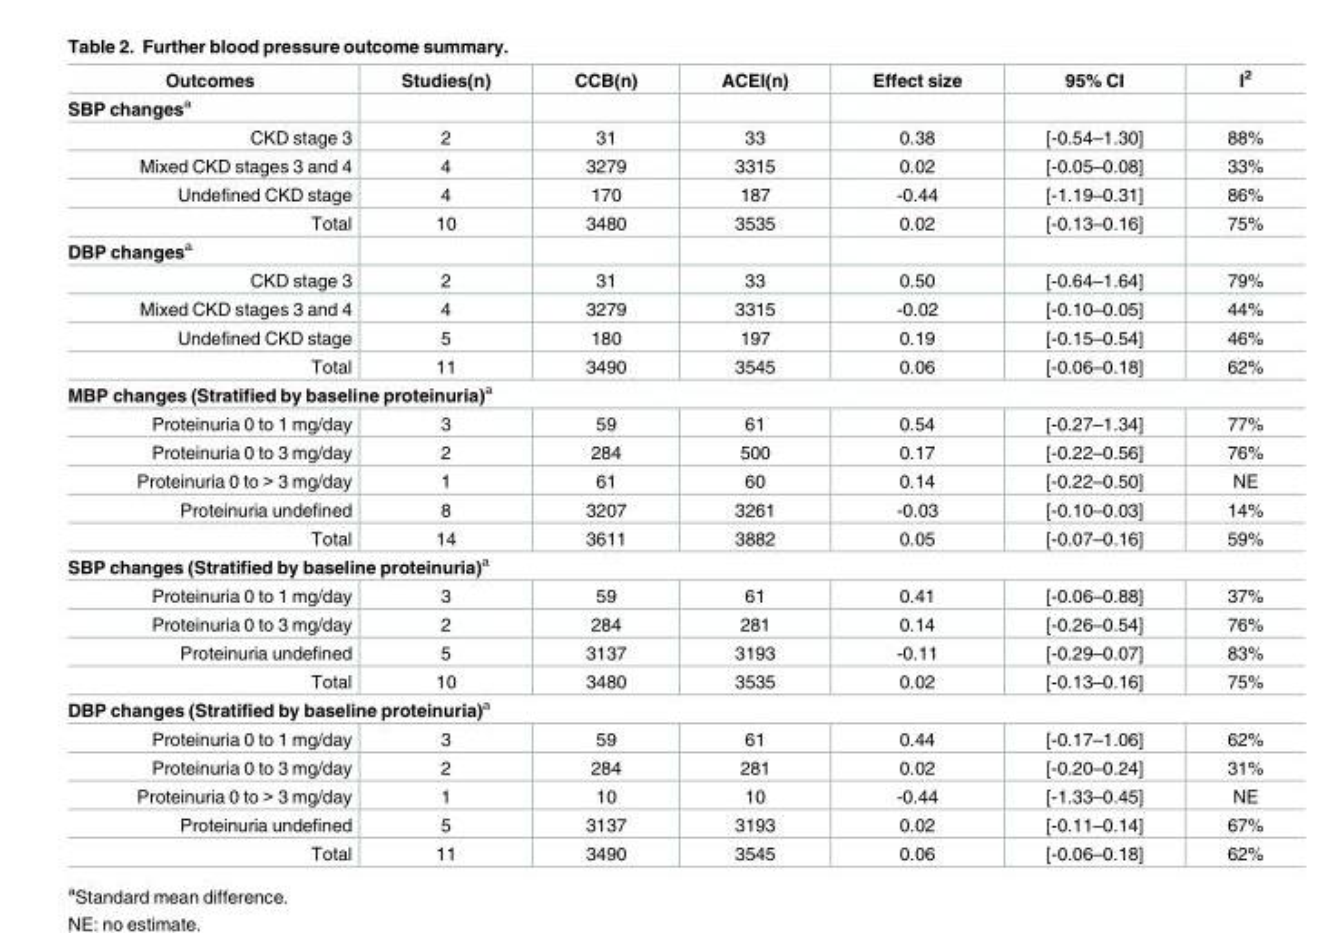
<table><thead><tr><td>Outcomes</td><td>Studies(n)</td><td>CCB(n)</td><td>ACEI(n)</td><td>Effect size</td><td>95% CI</td><td>I<sup>2</sup></td></tr></thead><tbody><tr><td colspan="7">SBP changes<sup>a</sup></td></tr><tr><td>CKD stage 3</td><td>2</td><td>31</td><td>33</td><td>0.38</td><td>[-0.54–1.30]</td><td>88%</td></tr><tr><td>Mixed CKD stages 3 and 4</td><td>4</td><td>3279</td><td>3315</td><td>0.02</td><td>[-0.05–0.08]</td><td>33%</td></tr><tr><td>Undefined CKD stage</td><td>4</td><td>170</td><td>187</td><td>-0.44</td><td>[-1.19–0.31]</td><td>86%</td></tr><tr><td>Total</td><td>10</td><td>3480</td><td>3535</td><td>0.02</td><td>[-0.13–0.16]</td><td>75%</td></tr><tr><td colspan="7">DBP changes<sup>a</sup></td></tr><tr><td>CKD stage 3</td><td>2</td><td>31</td><td>33</td><td>0.50</td><td>[-0.64–1.64]</td><td>79%</td></tr><tr><td>Mixed CKD stages 3 and 4</td><td>4</td><td>3279</td><td>3315</td><td>-0.02</td><td>[-0.10–0.05]</td><td>44%</td></tr><tr><td>Undefined CKD stage</td><td>5</td><td>180</td><td>197</td><td>0.19</td><td>[-0.15–0.54]</td><td>46%</td></tr><tr><td>Total</td><td>11</td><td>3490</td><td>3545</td><td>0.06</td><td>[-0.06–0.18]</td><td>62%</td></tr><tr><td colspan="7">MBP changes (Stratified by baseline proteinuria)<sup>a</sup></td></tr><tr><td>Proteinuria 0 to 1 mg/day</td><td>3</td><td>59</td><td>61</td><td>0.54</td><td>[-0.27–1.34]</td><td>77%</td></tr><tr><td>Proteinuria 0 to 3 mg/day</td><td>2</td><td>284</td><td>500</td><td>0.17</td><td>[-0.22–0.56]</td><td>76%</td></tr><tr><td>Proteinuria 0 to &gt; 3 mg/day</td><td>1</td><td>61</td><td>60</td><td>0.14</td><td>[-0.22–0.50]</td><td>NE</td></tr><tr><td>Proteinuria undefined</td><td>8</td><td>3207</td><td>3261</td><td>-0.03</td><td>[-0.10–0.03]</td><td>14%</td></tr><tr><td>Total</td><td>14</td><td>3611</td><td>3882</td><td>0.05</td><td>[-0.07–0.16]</td><td>59%</td></tr><tr><td colspan="7">SBP changes (Stratified by baseline proteinuria)<sup>a</sup></td></tr><tr><td>Proteinuria 0 to 1 mg/day</td><td>3</td><td>59</td><td>61</td><td>0.41</td><td>[-0.06–0.88]</td><td>37%</td></tr><tr><td>Proteinuria 0 to 3 mg/day</td><td>2</td><td>284</td><td>281</td><td>0.14</td><td>[-0.26–0.54]</td><td>76%</td></tr><tr><td>Proteinuria undefined</td><td>5</td><td>3137</td><td>3193</td><td>-0.11</td><td>[-0.29–0.07]</td><td>83%</td></tr><tr><td>Total</td><td>10</td><td>3480</td><td>3535</td><td>0.02</td><td>[-0.13–0.16]</td><td>75%</td></tr><tr><td colspan="7">DBP changes (Stratified by baseline proteinuria)<sup>a</sup></td></tr><tr><td>Proteinuria 0 to 1 mg/day</td><td>3</td><td>59</td><td>61</td><td>0.44</td><td>[-0.17–1.06]</td><td>62%</td></tr><tr><td>Proteinuria 0 to 3 mg/day</td><td>2</td><td>284</td><td>281</td><td>0.02</td><td>[-0.20–0.24]</td><td>31%</td></tr><tr><td>Proteinuria 0 to &gt; 3 mg/day</td><td>1</td><td>10</td><td>10</td><td>-0.44</td><td>[-1.33–0.45]</td><td>NE</td></tr><tr><td>Proteinuria undefined</td><td>5</td><td>3137</td><td>3193</td><td>0.02</td><td>[-0.11–0.14]</td><td>67%</td></tr><tr><td>Total</td><td>11</td><td>3490</td><td>3545</td><td>0.06</td><td>[-0.06–0.18]</td><td>62%</td></tr></tbody></table>